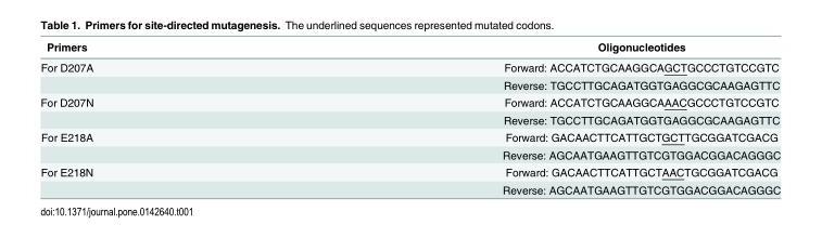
<table><thead><tr><td>Primers</td><td>Oligonucleotides</td></tr></thead><tbody><tr><td rowspan="2">For D207A</td><td>Forward: ACCATCTGCAAGGCAGCTGCCCTGTCCGTC</td></tr><tr><td>Reverse: TGCCTTGCAGATGGTGAGGCGCAAGAGTTC</td></tr><tr><td rowspan="2">For D207N</td><td>Forward: ACCATCTGCAAGGCAAACGCCCTGTCCGTC</td></tr><tr><td>Reverse: TGCCTTGCAGATGGTGAGGCGCAAGAGTTC</td></tr><tr><td rowspan="2">For E218A</td><td>Forward: GACAACTTCATTGCTGCTTGCGGATCGACG</td></tr><tr><td>Reverse: AGCAATGAAGTTGTCGTGGACGGACAGGGC</td></tr><tr><td rowspan="2">For E218N</td><td>Forward: GACAACTTCATTGCTAACTGCGGATCGACG</td></tr><tr><td>Reverse: AGCAATGAAGTTGTCGTGGACGGACAGGGC</td></tr></tbody></table>